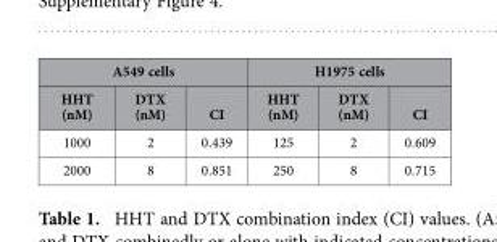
<table><thead><tr><td colspan="3">A549 cells</td><td colspan="3">H1975 cells</td></tr><tr><td>HHT (nM)</td><td>DTX (nM)</td><td>CI</td><td>HHT (nM)</td><td>DTX (nM)</td><td>CI</td></tr></thead><tbody><tr><td>1000</td><td>2</td><td>0.439</td><td>125</td><td>2</td><td>0.609</td></tr><tr><td>2000</td><td>8</td><td>0.851</td><td>250</td><td>8</td><td>0.715</td></tr></tbody></table>